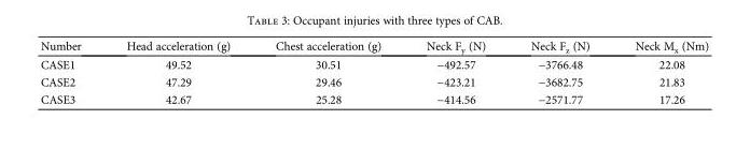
<table><thead><tr><td>Number</td><td>Head acceleration (g)</td><td>Chest acceleration (g)</td><td>Neck F<sub>y</sub> (N)</td><td>Neck F<sub>z</sub> (N)</td><td>Neck M<sub>x</sub> (Nm)</td></tr></thead><tbody><tr><td>CASE1</td><td>49.52</td><td>30.51</td><td>−492.57</td><td>−3766.48</td><td>22.08</td></tr><tr><td>CASE2</td><td>47.29</td><td>29.46</td><td>−423.21</td><td>−3682.75</td><td>21.83</td></tr><tr><td>CASE3</td><td>42.67</td><td>25.28</td><td>−414.56</td><td>−2571.77</td><td>17.26</td></tr></tbody></table>